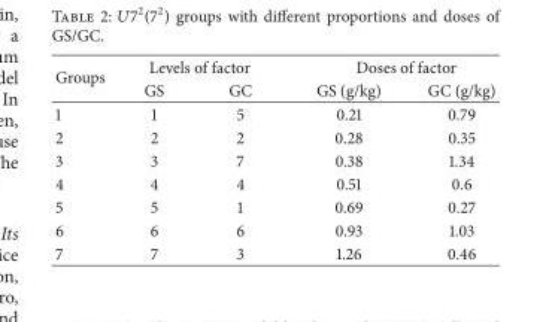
<table><thead><tr><td rowspan="2">Groups</td><td colspan="2">Levels of factor</td><td colspan="2">Doses of factor</td></tr><tr><td>GS</td><td>GC</td><td>GS (g/kg)</td><td>GC (g/kg)</td></tr></thead><tbody><tr><td>1</td><td>1</td><td>5</td><td>0.21</td><td>0.79</td></tr><tr><td>2</td><td>2</td><td>2</td><td>0.28</td><td>0.35</td></tr><tr><td>3</td><td>3</td><td>7</td><td>0.38</td><td>1.34</td></tr><tr><td>4</td><td>4</td><td>4</td><td>0.51</td><td>0.6</td></tr><tr><td>5</td><td>5</td><td>1</td><td>0.69</td><td>0.27</td></tr><tr><td>6</td><td>6</td><td>6</td><td>0.93</td><td>1.03</td></tr><tr><td>7</td><td>7</td><td>3</td><td>1.26</td><td>0.46</td></tr></tbody></table>